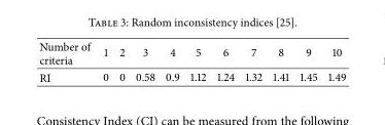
<table><tbody><tr><td>Number of criteria</td><td>1</td><td>2</td><td>3</td><td>4</td><td>5</td><td>6</td><td>7</td><td>8</td><td>9</td><td>10</td></tr><tr><td>RI</td><td>0</td><td>0</td><td>0.58</td><td>0.9</td><td>1.12</td><td>1.24</td><td>1.32</td><td>1.41</td><td>1.45</td><td>1.49</td></tr></tbody></table>